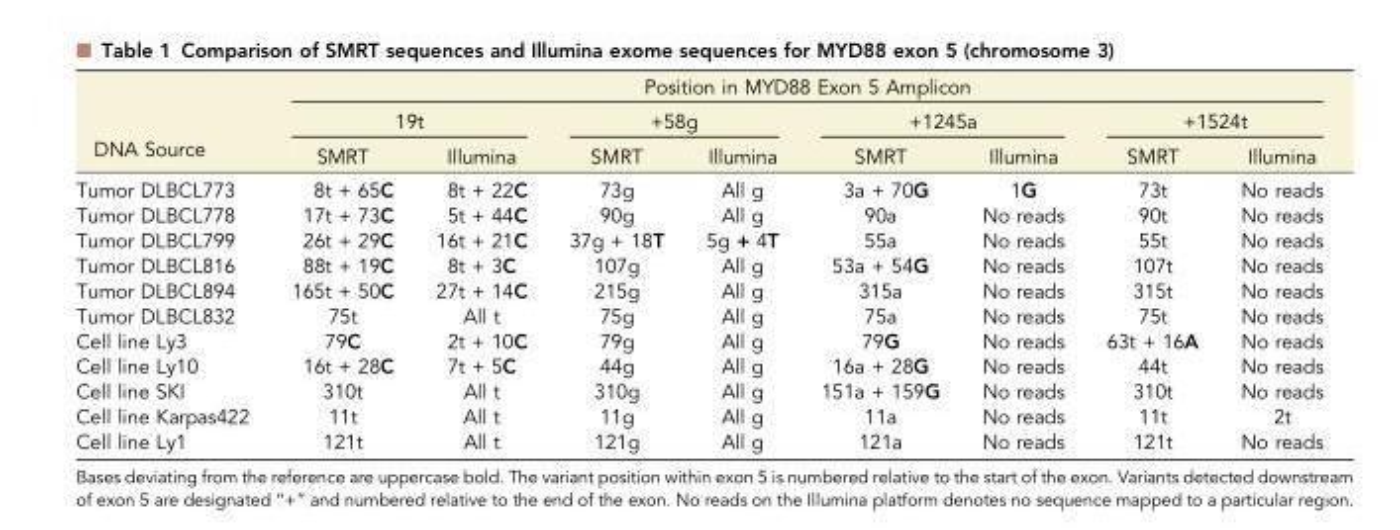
<table><thead><tr><td rowspan="3">DNA Source</td><td colspan="8">Position in MYD88 Exon 5 Amplicon</td></tr><tr><td colspan="2">19t</td><td colspan="2">+58g</td><td colspan="2">+1245a</td><td colspan="2">+1524t</td></tr><tr><td>SMRT</td><td>Illumina</td><td>SMRT</td><td>Illumina</td><td>SMRT</td><td>Illumina</td><td>SMRT</td><td>Illumina</td></tr></thead><tbody><tr><td>Tumor DLBCL773</td><td>8t + 65C</td><td>8t + 22C</td><td>73g</td><td>All g</td><td>3a + 70G</td><td>1G</td><td>73t</td><td>No reads</td></tr><tr><td>Tumor DLBCL778</td><td>17t + 73C</td><td>5t + 44C</td><td>90g</td><td>All g</td><td>90a</td><td>No reads</td><td>90t</td><td>No reads</td></tr><tr><td>Tumor DLBCL799</td><td>26t + 29C</td><td>16t + 21C</td><td>37g + 18T</td><td>5g + 4T</td><td>55a</td><td>No reads</td><td>55t</td><td>No reads</td></tr><tr><td>Tumor DLBCL816</td><td>88t + 19C</td><td>8t + 3C</td><td>107g</td><td>All g</td><td>53a + 54G</td><td>No reads</td><td>107t</td><td>No reads</td></tr><tr><td>Tumor DLBCL894</td><td>165t + 50C</td><td>27t + 14C</td><td>215g</td><td>All g</td><td>315a</td><td>No reads</td><td>315t</td><td>No reads</td></tr><tr><td>Tumor DLBCL832</td><td>75t</td><td>All t</td><td>75g</td><td>All g</td><td>75a</td><td>No reads</td><td>75t</td><td>No reads</td></tr><tr><td>Cell line Ly3</td><td>79C</td><td>2t + 10C</td><td>79g</td><td>All g</td><td>79G</td><td>No reads</td><td>63t + 16A</td><td>No reads</td></tr><tr><td>Cell line Ly10</td><td>16t + 28C</td><td>7t + 5C</td><td>44g</td><td>All g</td><td>16a + 28G</td><td>No reads</td><td>44t</td><td>No reads</td></tr><tr><td>Cell line SKI</td><td>310t</td><td>All t</td><td>310g</td><td>All g</td><td>151a + 159G</td><td>No reads</td><td>310t</td><td>No reads</td></tr><tr><td>Cell line Karpas422</td><td>11t</td><td>All t</td><td>11g</td><td>All g</td><td>11a</td><td>No reads</td><td>11t</td><td>2t</td></tr><tr><td>Cell line Ly1</td><td>121t</td><td>All t</td><td>121g</td><td>All g</td><td>121a</td><td>No reads</td><td>121t</td><td>No reads</td></tr></tbody></table>